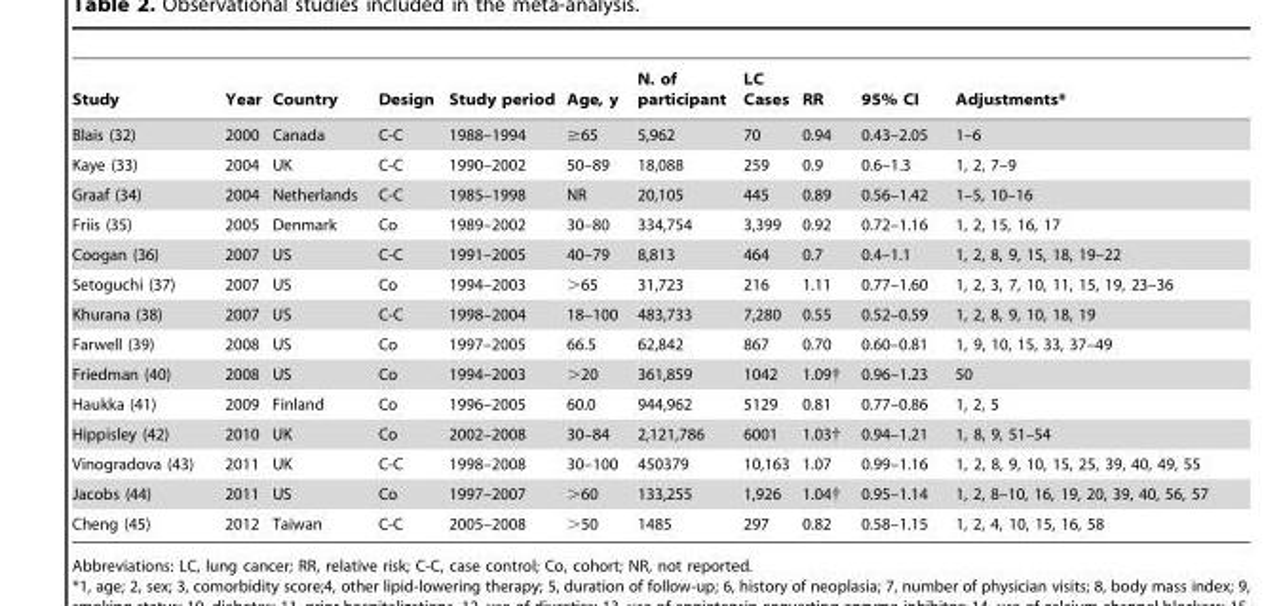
<table><thead><tr><td>Study</td><td>Year</td><td>Country</td><td>Design</td><td>Study period</td><td>Age, y</td><td>N. of participant</td><td>LC Cases</td><td>RR</td><td>95% CI</td><td>Adjustments*</td></tr></thead><tbody><tr><td>Blais (32)</td><td>2000</td><td>Canada</td><td>C-C</td><td>1988–1994</td><td>≥65</td><td>5,962</td><td>70</td><td>0.94</td><td>0.43–2.05</td><td>1–6</td></tr><tr><td>Kaye (33)</td><td>2004</td><td>UK</td><td>C-C</td><td>1990–2002</td><td>50–89</td><td>18,088</td><td>259</td><td>0.9</td><td>0.6–1.3</td><td>1, 2, 7–9</td></tr><tr><td>Graaf (34)</td><td>2004</td><td>Netherlands</td><td>C-C</td><td>1985–1998</td><td>NR</td><td>20,105</td><td>445</td><td>0.89</td><td>0.56–1.42</td><td>1–5, 10–16</td></tr><tr><td>Friis (35)</td><td>2005</td><td>Denmark</td><td>Co</td><td>1989–2002</td><td>30–80</td><td>334,754</td><td>3,399</td><td>0.92</td><td>0.72–1.16</td><td>1, 2, 15, 16, 17</td></tr><tr><td>Coogan (36)</td><td>2007</td><td>US</td><td>C-C</td><td>1991–2005</td><td>40–79</td><td>8,813</td><td>464</td><td>0.7</td><td>0.4–1.1</td><td>1, 2, 8, 9, 15, 18, 19–22</td></tr><tr><td>Setoguchi (37)</td><td>2007</td><td>US</td><td>Co</td><td>1994–2003</td><td>&gt;65</td><td>31,723</td><td>216</td><td>1.11</td><td>0.77–1.60</td><td>1, 2, 3, 7, 10, 11, 15, 19, 23–36</td></tr><tr><td>Khurana (38)</td><td>2007</td><td>US</td><td>C-C</td><td>1998–2004</td><td>18–100</td><td>483,733</td><td>7,280</td><td>0.55</td><td>0.52–0.59</td><td>1, 2, 8, 9, 10, 18, 19</td></tr><tr><td>Farwell (39)</td><td>2008</td><td>US</td><td>Co</td><td>1997–2005</td><td>66.5</td><td>62,842</td><td>867</td><td>0.70</td><td>0.60–0.81</td><td>1, 9, 10, 15, 33, 37–49</td></tr><tr><td>Friedman (40)</td><td>2008</td><td>US</td><td>Co</td><td>1994–2003</td><td>&gt;20</td><td>361,859</td><td>1042</td><td>1.09†</td><td>0.96–1.23</td><td>50</td></tr><tr><td>Haukka (41)</td><td>2009</td><td>Finland</td><td>Co</td><td>1996–2005</td><td>60.0</td><td>944,962</td><td>5129</td><td>0.81</td><td>0.77–0.86</td><td>1, 2, 5</td></tr><tr><td>Hippisley (42)</td><td>2010</td><td>UK</td><td>Co</td><td>2002–2008</td><td>30–84</td><td>2,121,786</td><td>6001</td><td>1.03†</td><td>0.94–1.21</td><td>1, 8, 9, 51–54</td></tr><tr><td>Vinogradova (43)</td><td>2011</td><td>UK</td><td>C-C</td><td>1998–2008</td><td>30–100</td><td>450379</td><td>10,163</td><td>1.07</td><td>0.99–1.16</td><td>1, 2, 8, 9, 10, 15, 25, 39, 40, 49, 55</td></tr><tr><td>Jacobs (44)</td><td>2011</td><td>US</td><td>Co</td><td>1997–2007</td><td>&gt;60</td><td>133,255</td><td>1,926</td><td>1.04†</td><td>0.95–1.14</td><td>1, 2, 8–10, 16, 19, 20, 39, 40, 56, 57</td></tr><tr><td>Cheng (45)</td><td>2012</td><td>Taiwan</td><td>C-C</td><td>2005–2008</td><td>&gt;50</td><td>1485</td><td>297</td><td>0.82</td><td>0.58–1.15</td><td>1, 2, 4, 10, 15, 16, 58</td></tr></tbody></table>